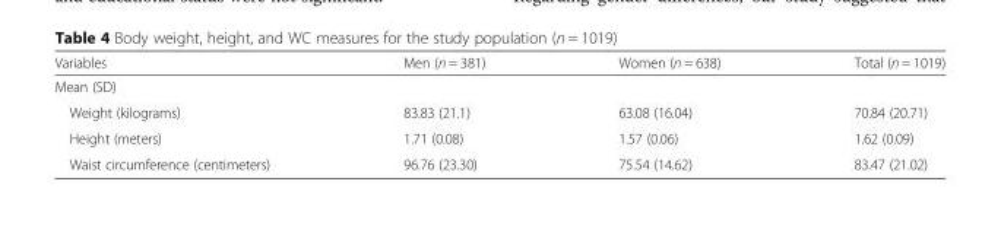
<table><thead><tr><td>Variables</td><td>Men (n = 381)</td><td>Women (n = 638)</td><td>Total (n = 1019)</td></tr></thead><tbody><tr><td colspan="4">Mean (SD)</td></tr><tr><td>Weight (kilograms)</td><td>83.83 (21.1)</td><td>63.08 (16.04)</td><td>70.84 (20.71)</td></tr><tr><td>Height (meters)</td><td>1.71 (0.08)</td><td>1.57 (0.06)</td><td>1.62 (0.09)</td></tr><tr><td>Waist circumference (centimeters)</td><td>96.76 (23.30)</td><td>75.54 (14.62)</td><td>83.47 (21.02)</td></tr></tbody></table>